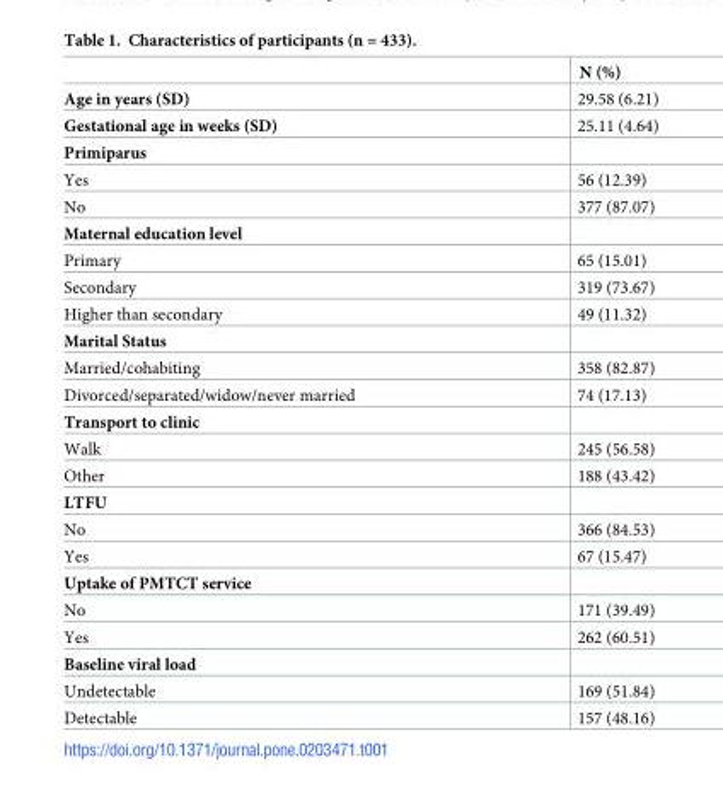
<table><thead><tr><td></td><td>N (%)</td></tr></thead><tbody><tr><td>Age in years (SD)</td><td>29.58 (6.21)</td></tr><tr><td>Gestational age in weeks (SD)</td><td>25.11 (4.64)</td></tr><tr><td colspan="2">Primiparus</td></tr><tr><td>Yes</td><td>56 (12.39)</td></tr><tr><td>No</td><td>377 (87.07)</td></tr><tr><td colspan="2">Maternal education level</td></tr><tr><td>Primary</td><td>65 (15.01)</td></tr><tr><td>Secondary</td><td>319 (73.67)</td></tr><tr><td>Higher than secondary</td><td>49 (11.32)</td></tr><tr><td colspan="2">Marital Status</td></tr><tr><td>Married/cohabiting</td><td>358 (82.87)</td></tr><tr><td>Divorced/separated/widow/never married</td><td>74 (17.13)</td></tr><tr><td colspan="2">Transport to clinic</td></tr><tr><td>Walk</td><td>245 (56.58)</td></tr><tr><td>Other</td><td>188 (43.42)</td></tr><tr><td colspan="2">LTFU</td></tr><tr><td>No</td><td>366 (84.53)</td></tr><tr><td>Yes</td><td>67 (15.47)</td></tr><tr><td colspan="2">Uptake of PMTCT service</td></tr><tr><td>No</td><td>171 (39.49)</td></tr><tr><td>Yes</td><td>262 (60.51)</td></tr><tr><td colspan="2">Baseline viral load</td></tr><tr><td>Undetectable</td><td>169 (51.84)</td></tr><tr><td>Detectable</td><td>157 (48.16)</td></tr></tbody></table>